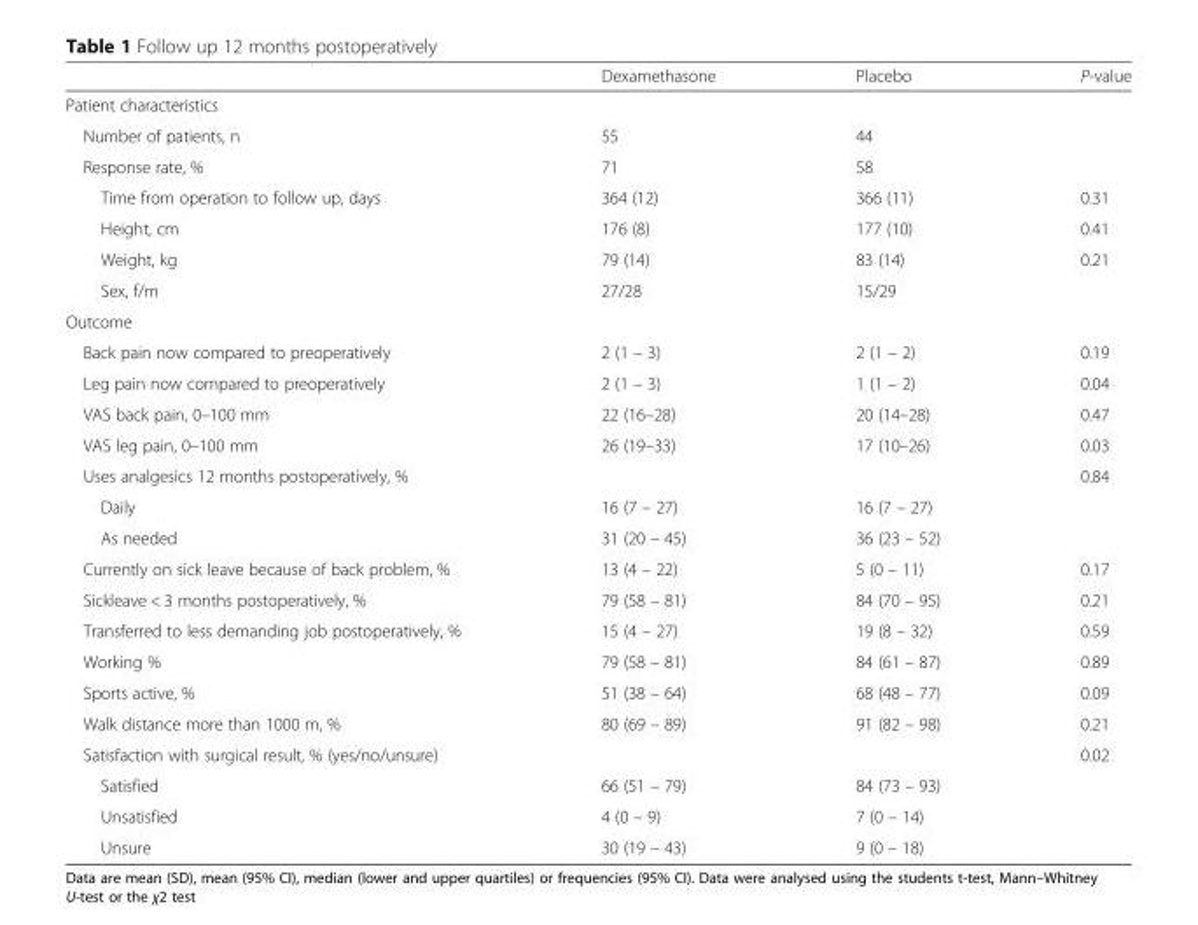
<table><thead><tr><td></td><td>Dexamethasone</td><td>Placebo</td><td>P-value</td></tr></thead><tbody><tr><td colspan="4">Patient characteristics</td></tr><tr><td>Number of patients, n</td><td>55</td><td>44</td><td></td></tr><tr><td>Response rate, %</td><td>71</td><td>58</td><td></td></tr><tr><td>Time from operation to follow up, days</td><td>364 (12)</td><td>366 (11)</td><td>0.31</td></tr><tr><td>Height, cm</td><td>176 (8)</td><td>177 (10)</td><td>0.41</td></tr><tr><td>Weight, kg</td><td>79 (14)</td><td>83 (14)</td><td>0.21</td></tr><tr><td>Sex, f/m</td><td>27/28</td><td>15/29</td><td></td></tr><tr><td colspan="4">Outcome</td></tr><tr><td>Back pain now compared to preoperatively</td><td>2 (1 – 3)</td><td>2 (1 – 2)</td><td>0.19</td></tr><tr><td>Leg pain now compared to preoperatively</td><td>2 (1 – 3)</td><td>1 (1 – 2)</td><td>0.04</td></tr><tr><td>VAS back pain, 0–100 mm</td><td>22 (16–28)</td><td>20 (14–28)</td><td>0.47</td></tr><tr><td>VAS leg pain, 0–100 mm</td><td>26 (19–33)</td><td>17 (10–26)</td><td>0.03</td></tr><tr><td>Uses analgesics 12 months postoperatively, %</td><td></td><td></td><td>0.84</td></tr><tr><td>Daily</td><td>16 (7 – 27)</td><td>16 (7 – 27)</td><td></td></tr><tr><td>As needed</td><td>31 (20 – 45)</td><td>36 (23 – 52)</td><td></td></tr><tr><td>Currently on sick leave because of back problem, %</td><td>13 (4 – 22)</td><td>5 (0 – 11)</td><td>0.17</td></tr><tr><td>Sickleave &lt; 3 months postoperatively, %</td><td>79 (58 – 81)</td><td>84 (70 – 95)</td><td>0.21</td></tr><tr><td>Transferred to less demanding job postoperatively, %</td><td>15 (4 – 27)</td><td>19 (8 – 32)</td><td>0.59</td></tr><tr><td>Working %</td><td>79 (58 – 81)</td><td>84 (61 – 87)</td><td>0.89</td></tr><tr><td>Sports active, %</td><td>51 (38 – 64)</td><td>68 (48 – 77)</td><td>0.09</td></tr><tr><td>Walk distance more than 1000 m, %</td><td>80 (69 – 89)</td><td>91 (82 – 98)</td><td>0.21</td></tr><tr><td>Satisfaction with surgical result, % (yes/no/unsure)</td><td></td><td></td><td>0.02</td></tr><tr><td>Satisfied</td><td>66 (51 – 79)</td><td>84 (73 – 93)</td><td></td></tr><tr><td>Unsatisfied</td><td>4 (0 – 9)</td><td>7 (0 – 14)</td><td></td></tr><tr><td>Unsure</td><td>30 (19 – 43)</td><td>9 (0 – 18)</td><td></td></tr></tbody></table>